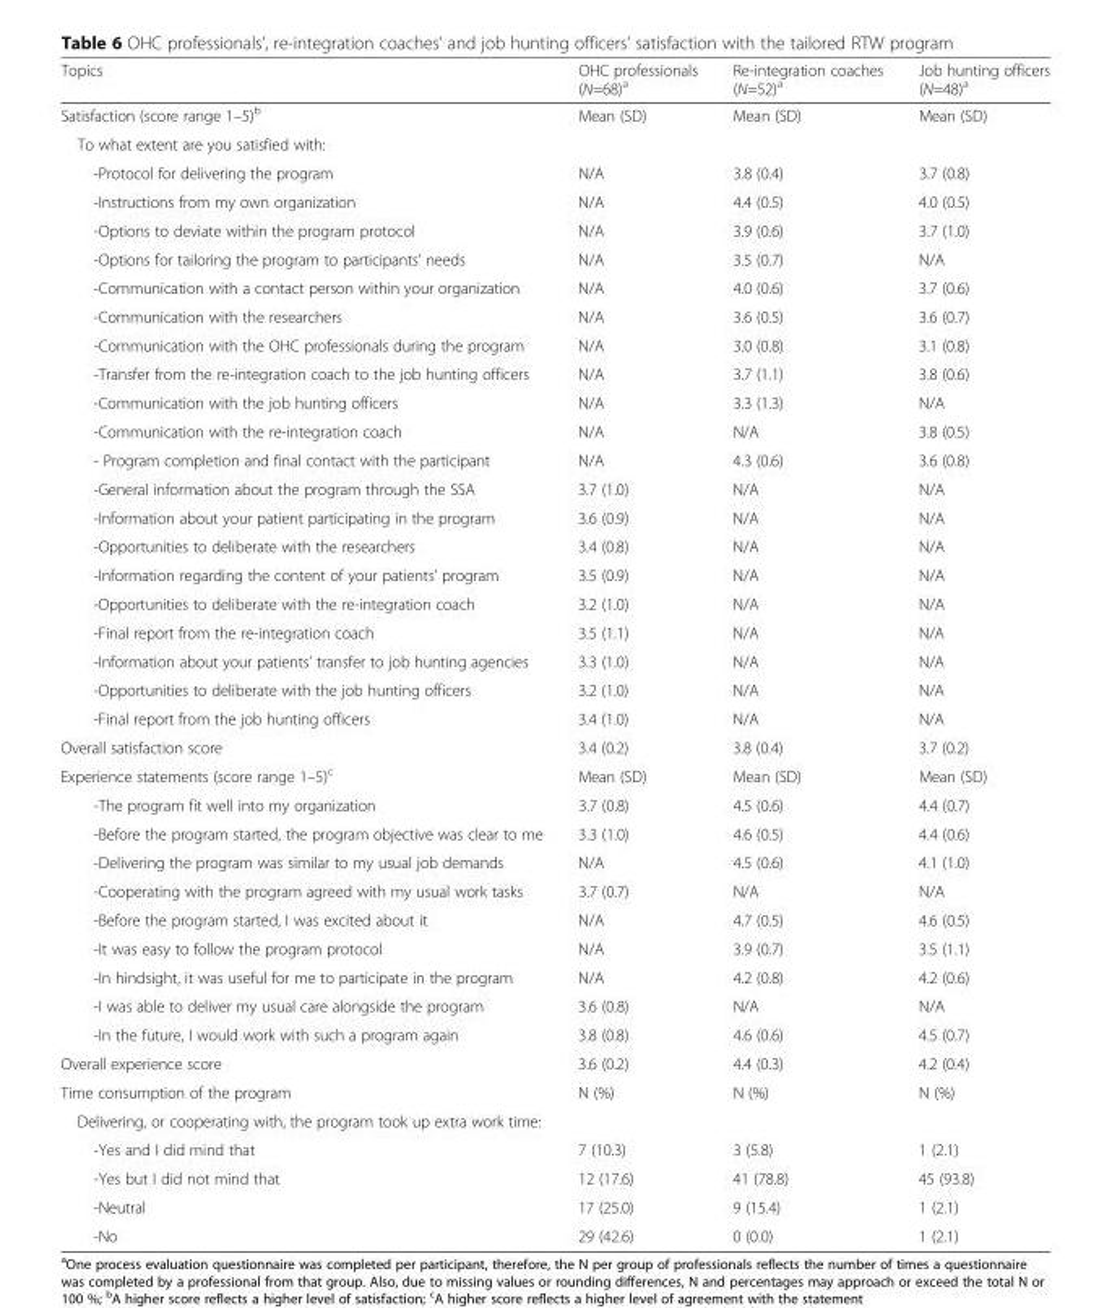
<table><thead><tr><td>Topics</td><td>OHC professionals (N=68)<sup>a</sup></td><td>Re-integration coaches (N=52)<sup>a</sup></td><td>Job hunting officers (N=48)<sup>a</sup></td></tr></thead><tbody><tr><td>Satisfaction (score range 1–5)<sup>b</sup></td><td>Mean (SD)</td><td>Mean (SD)</td><td>Mean (SD)</td></tr><tr><td colspan="4">To what extent are you satisfied with:</td></tr><tr><td>-Protocol for delivering the program</td><td>N/A</td><td>3.8 (0.4)</td><td>3.7 (0.8)</td></tr><tr><td>-Instructions from my own organization</td><td>N/A</td><td>4.4 (0.5)</td><td>4.0 (0.5)</td></tr><tr><td>-Options to deviate within the program protocol</td><td>N/A</td><td>3.9 (0.6)</td><td>3.7 (1.0)</td></tr><tr><td>-Options for tailoring the program to participants’ needs</td><td>N/A</td><td>3.5 (0.7)</td><td>N/A</td></tr><tr><td>-Communication with a contact person within your organization</td><td>N/A</td><td>4.0 (0.6)</td><td>3.7 (0.6)</td></tr><tr><td>-Communication with the researchers</td><td>N/A</td><td>3.6 (0.5)</td><td>3.6 (0.7)</td></tr><tr><td>-Communication with the OHC professionals during the program</td><td>N/A</td><td>3.0 (0.8)</td><td>3.1 (0.8)</td></tr><tr><td>-Transfer from the re-integration coach to the job hunting officers</td><td>N/A</td><td>3.7 (1.1)</td><td>3.8 (0.6)</td></tr><tr><td>-Communication with the job hunting officers</td><td>N/A</td><td>3.3 (1.3)</td><td>N/A</td></tr><tr><td>-Communication with the re-integration coach</td><td>N/A</td><td>N/A</td><td>3.8 (0.5)</td></tr><tr><td>- Program completion and final contact with the participant</td><td>N/A</td><td>4.3 (0.6)</td><td>3.6 (0.8)</td></tr><tr><td>-General information about the program through the SSA</td><td>3.7 (1.0)</td><td>N/A</td><td>N/A</td></tr><tr><td>-Information about your patient participating in the program</td><td>3.6 (0.9)</td><td>N/A</td><td>N/A</td></tr><tr><td>-Opportunities to deliberate with the researchers</td><td>3.4 (0.8)</td><td>N/A</td><td>N/A</td></tr><tr><td>-Information regarding the content of your patients’ program</td><td>3.5 (0.9)</td><td>N/A</td><td>N/A</td></tr><tr><td>-Opportunities to deliberate with the re-integration coach</td><td>3.2 (1.0)</td><td>N/A</td><td>N/A</td></tr><tr><td>-Final report from the re-integration coach</td><td>3.5 (1.1)</td><td>N/A</td><td>N/A</td></tr><tr><td>-Information about your patients’ transfer to job hunting agencies</td><td>3.3 (1.0)</td><td>N/A</td><td>N/A</td></tr><tr><td>-Opportunities to deliberate with the job hunting officers</td><td>3.2 (1.0)</td><td>N/A</td><td>N/A</td></tr><tr><td>-Final report from the job hunting officers</td><td>3.4 (1.0)</td><td>N/A</td><td>N/A</td></tr><tr><td>Overall satisfaction score</td><td>3.4 (0.2)</td><td>3.8 (0.4)</td><td>3.7 (0.2)</td></tr><tr><td>Experience statements (score range 1–5)<sup>c</sup></td><td>Mean (SD)</td><td>Mean (SD)</td><td>Mean (SD)</td></tr><tr><td>-The program fit well into my organization</td><td>3.7 (0.8)</td><td>4.5 (0.6)</td><td>4.4 (0.7)</td></tr><tr><td>-Before the program started, the program objective was clear to me</td><td>3.3 (1.0)</td><td>4.6 (0.5)</td><td>4.4 (0.6)</td></tr><tr><td>-Delivering the program was similar to my usual job demands</td><td>N/A</td><td>4.5 (0.6)</td><td>4.1 (1.0)</td></tr><tr><td>-Cooperating with the program agreed with my usual work tasks</td><td>3.7 (0.7)</td><td>N/A</td><td>N/A</td></tr><tr><td>-Before the program started, I was excited about it</td><td>N/A</td><td>4.7 (0.5)</td><td>4.6 (0.5)</td></tr><tr><td>-It was easy to follow the program protocol</td><td>N/A</td><td>3.9 (0.7)</td><td>3.5 (1.1)</td></tr><tr><td>-In hindsight, it was useful for me to participate in the program</td><td>N/A</td><td>4.2 (0.8)</td><td>4.2 (0.6)</td></tr><tr><td>-I was able to deliver my usual care alongside the program</td><td>3.6 (0.8)</td><td>N/A</td><td>N/A</td></tr><tr><td>-In the future, I would work with such a program again</td><td>3.8 (0.8)</td><td>4.6 (0.6)</td><td>4.5 (0.7)</td></tr><tr><td>Overall experience score</td><td>3.6 (0.2)</td><td>4.4 (0.3)</td><td>4.2 (0.4)</td></tr><tr><td>Time consumption of the program</td><td>N (%)</td><td>N (%)</td><td>N (%)</td></tr><tr><td colspan="4">Delivering, or cooperating with, the program took up extra work time:</td></tr><tr><td>-Yes and I did mind that</td><td>7 (10.3)</td><td>3 (5.8)</td><td>1 (2.1)</td></tr><tr><td>-Yes but I did not mind that</td><td>12 (17.6)</td><td>41 (78.8)</td><td>45 (93.8)</td></tr><tr><td>-Neutral</td><td>17 (25.0)</td><td>9 (15.4)</td><td>1 (2.1)</td></tr><tr><td>-No</td><td>29 (42.6)</td><td>0 (0.0)</td><td>1 (2.1)</td></tr></tbody></table>